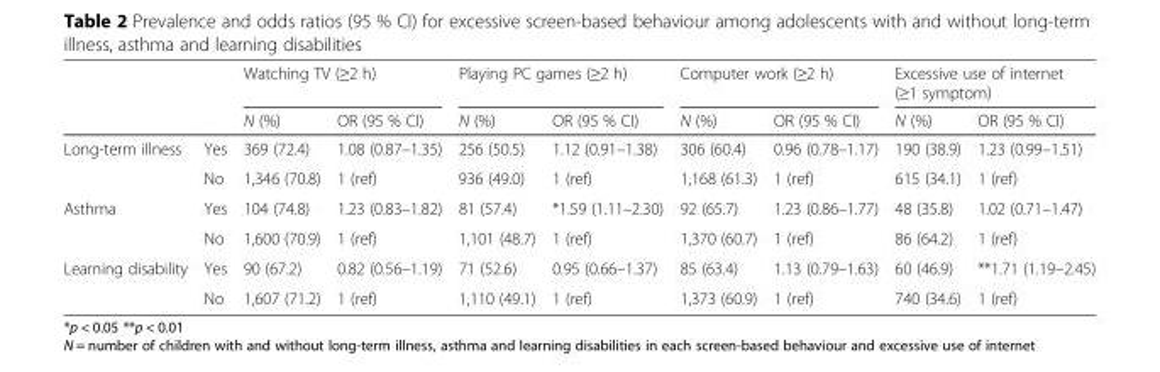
<table><thead><tr><td rowspan="2"></td><td rowspan="2"></td><td colspan="2">Watching TV (≥2 h)</td><td colspan="2">Playing PC games (≥2 h)</td><td colspan="2">Computer work (≥2 h)</td><td colspan="2">Excessive use of internet (≥1 symptom)</td></tr><tr><td>N (%)</td><td>OR (95 % CI)</td><td>N (%)</td><td>OR (95 % CI)</td><td>N (%)</td><td>OR (95 % CI)</td><td>N (%)</td><td>OR (95 % CI)</td></tr></thead><tbody><tr><td rowspan="2">Long-term illness</td><td>Yes</td><td>369 (72.4)</td><td>1.08 (0.87–1.35)</td><td>256 (50.5)</td><td>1.12 (0.91–1.38)</td><td>306 (60.4)</td><td>0.96 (0.78–1.17)</td><td>190 (38.9)</td><td>1.23 (0.99–1.51)</td></tr><tr><td>No</td><td>1,346 (70.8)</td><td>1 (ref)</td><td>936 (49.0)</td><td>1 (ref)</td><td>1,168 (61.3)</td><td>1 (ref)</td><td>615 (34.1)</td><td>1 (ref)</td></tr><tr><td rowspan="2">Asthma</td><td>Yes</td><td>104 (74.8)</td><td>1.23 (0.83–1.82)</td><td>81 (57.4)</td><td>*1.59 (1.11–2.30)</td><td>92 (65.7)</td><td>1.23 (0.86–1.77)</td><td>48 (35.8)</td><td>1.02 (0.71–1.47)</td></tr><tr><td>No</td><td>1,600 (70.9)</td><td>1 (ref)</td><td>1,101 (48.7)</td><td>1 (ref)</td><td>1,370 (60.7)</td><td>1 (ref)</td><td>86 (64.2)</td><td>1 (ref)</td></tr><tr><td rowspan="2">Learning disability</td><td>Yes</td><td>90 (67.2)</td><td>0.82 (0.56–1.19)</td><td>71 (52.6)</td><td>0.95 (0.66–1.37)</td><td>85 (63.4)</td><td>1.13 (0.79–1.63)</td><td>60 (46.9)</td><td>**1.71 (1.19–2.45)</td></tr><tr><td>No</td><td>1,607 (71.2)</td><td>1 (ref)</td><td>1,110 (49.1)</td><td>1 (ref)</td><td>1,373 (60.9)</td><td>1 (ref)</td><td>740 (34.6)</td><td>1 (ref)</td></tr></tbody></table>